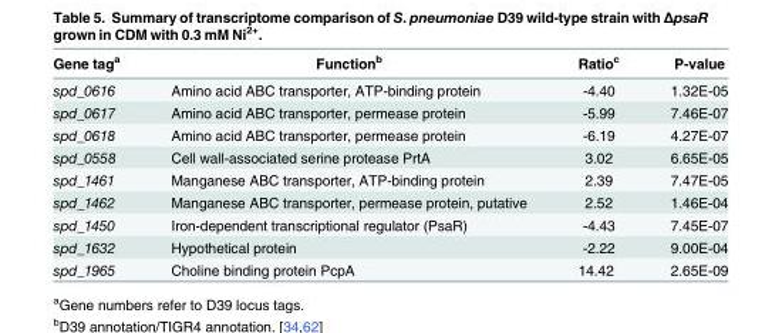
<table><thead><tr><td>Gene tag<sup>a</sup></td><td>Function<sup>b</sup></td><td>Ratio<sup>c</sup></td><td>P-value</td></tr></thead><tbody><tr><td>spd_0616</td><td>Amino acid ABC transporter, ATP-binding protein</td><td>-4.40</td><td>1.32E-05</td></tr><tr><td>spd_0617</td><td>Amino acid ABC transporter, permease protein</td><td>-5.99</td><td>7.46E-07</td></tr><tr><td>spd_0618</td><td>Amino acid ABC transporter, permease protein</td><td>-6.19</td><td>4.27E-07</td></tr><tr><td>spd_0558</td><td>Cell wall-associated serine protease PrtA</td><td>3.02</td><td>6.65E-05</td></tr><tr><td>spd_1461</td><td>Manganese ABC transporter, ATP-binding protein</td><td>2.39</td><td>7.47E-05</td></tr><tr><td>spd_1462</td><td>Manganese ABC transporter, permease protein, putative</td><td>2.52</td><td>1.46E-04</td></tr><tr><td>spd_1450</td><td>Iron-dependent transcriptional regulator (PsaR)</td><td>-4.43</td><td>7.45E-07</td></tr><tr><td>spd_1632</td><td>Hypothetical protein</td><td>-2.22</td><td>9.00E-04</td></tr><tr><td>spd_1965</td><td>Choline binding protein PcpA</td><td>14.42</td><td>2.65E-09</td></tr></tbody></table>